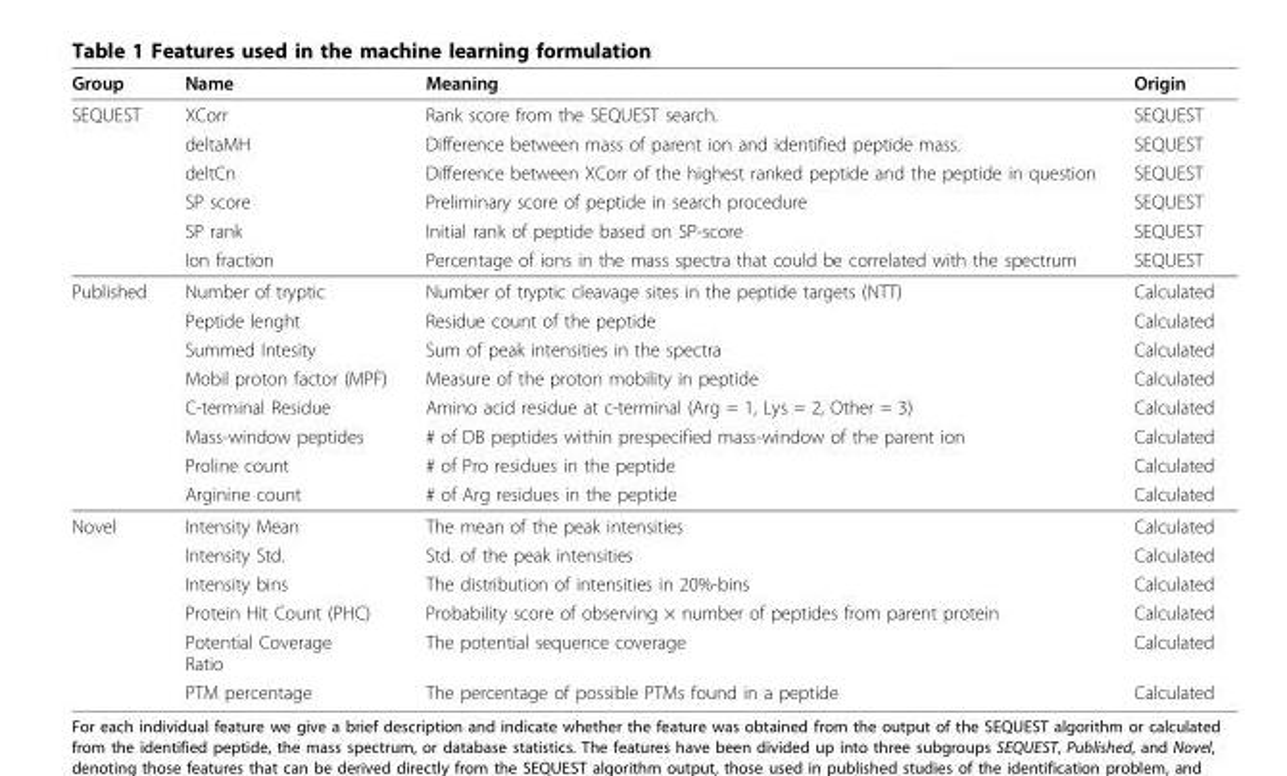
<table><thead><tr><td>Group</td><td>Name</td><td>Meaning</td><td>Origin</td></tr></thead><tbody><tr><td rowspan="6">SEQUEST</td><td>XCorr</td><td>Rank score from the SEQUEST search.</td><td>SEQUEST</td></tr><tr><td>deltaMH</td><td>Difference between mass of parent ion and identified peptide mass.</td><td>SEQUEST</td></tr><tr><td>deltCn</td><td>Difference between XCorr of the highest ranked peptide and the peptide in question</td><td>SEQUEST</td></tr><tr><td>SP score</td><td>Preliminary score of peptide in search procedure</td><td>SEQUEST</td></tr><tr><td>SP rank</td><td>Initial rank of peptide based on SP-score</td><td>SEQUEST</td></tr><tr><td>Ion fraction</td><td>Percentage of ions in the mass spectra that could be correlated with the spectrum</td><td>SEQUEST</td></tr><tr><td rowspan="8">Published</td><td>Number of tryptic</td><td>Number of tryptic cleavage sites in the peptide targets (NTT)</td><td>Calculated</td></tr><tr><td>Peptide lenght</td><td>Residue count of the peptide</td><td>Calculated</td></tr><tr><td>Summed Intesity</td><td>Sum of peak intensities in the spectra</td><td>Calculated</td></tr><tr><td>Mobil proton factor (MPF)</td><td>Measure of the proton mobility in peptide</td><td>Calculated</td></tr><tr><td>C-terminal Residue</td><td>Amino acid residue at c-terminal (Arg = 1, Lys = 2, Other = 3)</td><td>Calculated</td></tr><tr><td>Mass-window peptides</td><td># of DB peptides within prespecified mass-window of the parent ion</td><td>Calculated</td></tr><tr><td>Proline count</td><td># of Pro residues in the peptide</td><td>Calculated</td></tr><tr><td>Arginine count</td><td># of Arg residues in the peptide</td><td>Calculated</td></tr><tr><td rowspan="6">Novel</td><td>Intensity Mean</td><td>The mean of the peak intensities</td><td>Calculated</td></tr><tr><td>Intensity Std.</td><td>Std. of the peak intensities</td><td>Calculated</td></tr><tr><td>Intensity bins</td><td>The distribution of intensities in 20%-bins</td><td>Calculated</td></tr><tr><td>Protein Hit Count (PHC)</td><td>Probability score of observing × number of peptides from parent protein</td><td>Calculated</td></tr><tr><td>Potential Coverage Ratio</td><td>The potential sequence coverage</td><td>Calculated</td></tr><tr><td>PTM percentage</td><td>The percentage of possible PTMs found in a peptide</td><td>Calculated</td></tr></tbody></table>